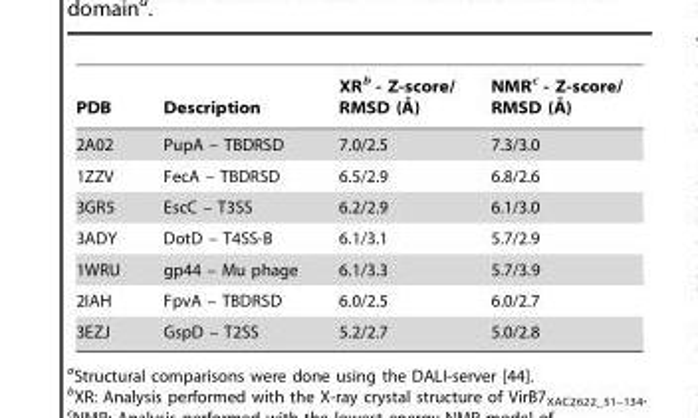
<table><thead><tr><td>PDB</td><td>Description</td><td>XRb - Z-score/ RMSD (A˚ )</td><td>NMRc - Z-score/ RMSD (A˚ )</td></tr></thead><tbody><tr><td>2A02</td><td>PupA – TBDRSD</td><td>7.0/2.5</td><td>7.3/3.0</td></tr><tr><td>1ZZV</td><td>FecA – TBDRSD</td><td>6.5/2.9</td><td>6.8/2.6</td></tr><tr><td>3GR5</td><td>EscC – T3SS</td><td>6.2/2.9</td><td>6.1/3.0</td></tr><tr><td>3ADY</td><td>DotD – T4SS-B</td><td>6.1/3.1</td><td>5.7/2.9</td></tr><tr><td>1WRU</td><td>gp44 – Mu phage</td><td>6.1/3.3</td><td>5.7/3.9</td></tr><tr><td>2IAH</td><td>FpvA – TBDRSD</td><td>6.0/2.5</td><td>6.0/2.7</td></tr><tr><td>3EZJ</td><td>GspD – T2SS</td><td>5.2/2.7</td><td>5.0/2.8</td></tr></tbody></table>